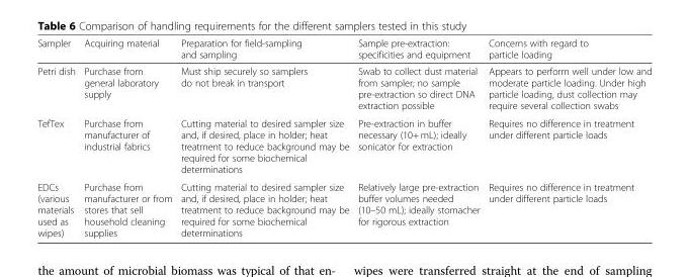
<table><thead><tr><td>Sampler</td><td>Acquiring material</td><td>Preparation for field-sampling and sampling</td><td>Sample pre-extraction: specificities and equipment</td><td>Concerns with regard to particle loading</td></tr></thead><tbody><tr><td>Petri dish</td><td>Purchase from general laboratory supply</td><td>Must ship securely so samplers do not break in transport</td><td>Swab to collect dust material from sampler; no sample pre-extraction so direct DNA extraction possible</td><td>Appears to perform well under low and moderate particle loading. Under high particle loading, dust collection may require several collection swabs</td></tr><tr><td>TefTex</td><td>Purchase from manufacturer of industrial fabrics</td><td>Cutting material to desired sampler size and, if desired, place in holder; heat treatment to reduce background may be required for some biochemical determinations</td><td>Pre-extraction in buffer necessary (10+ mL); ideally sonicator for extraction</td><td>Requires no difference in treatment under different particle loads</td></tr><tr><td>EDCs (various materials used as wipes)</td><td>Purchase from manufacturer or from stores that sell household cleaning supplies</td><td>Cutting material to desired sampler size and, if desired, place in holder; heat treatment to reduce background may be required for some biochemical determinations</td><td>Relatively large pre-extraction buffer volumes needed (10–50 mL); ideally stomacher for rigorous extraction</td><td>Requires no difference in treatment under different particle loads</td></tr></tbody></table>